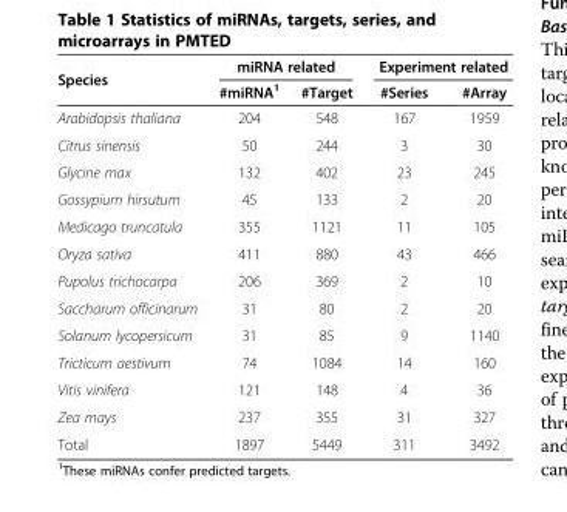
<table><thead><tr><td rowspan="2">Species</td><td colspan="2">miRNA related</td><td colspan="2">Experiment related</td></tr><tr><td>#miRNA<sup>1</sup></td><td>#Target</td><td>#Series</td><td>#Array</td></tr></thead><tbody><tr><td>Arabidopsis thaliana</td><td>204</td><td>548</td><td>167</td><td>1959</td></tr><tr><td>Citrus sinensis</td><td>50</td><td>244</td><td>3</td><td>30</td></tr><tr><td>Glycine max</td><td>132</td><td>402</td><td>23</td><td>245</td></tr><tr><td>Gossypium hirsutum</td><td>45</td><td>133</td><td>2</td><td>20</td></tr><tr><td>Medicago truncatula</td><td>355</td><td>1121</td><td>11</td><td>105</td></tr><tr><td>Oryza sativa</td><td>411</td><td>880</td><td>43</td><td>466</td></tr><tr><td>Pupolus trichocarpa</td><td>206</td><td>369</td><td>2</td><td>10</td></tr><tr><td>Saccharum officinarum</td><td>31</td><td>80</td><td>2</td><td>20</td></tr><tr><td>Solanum lycopersicum</td><td>31</td><td>85</td><td>9</td><td>1140</td></tr><tr><td>Tricticum aestivum</td><td>74</td><td>1084</td><td>14</td><td>160</td></tr><tr><td>Vitis vinifera</td><td>121</td><td>148</td><td>4</td><td>36</td></tr><tr><td>Zea mays</td><td>237</td><td>355</td><td>31</td><td>327</td></tr><tr><td>Total</td><td>1897</td><td>5449</td><td>311</td><td>3492</td></tr></tbody></table>